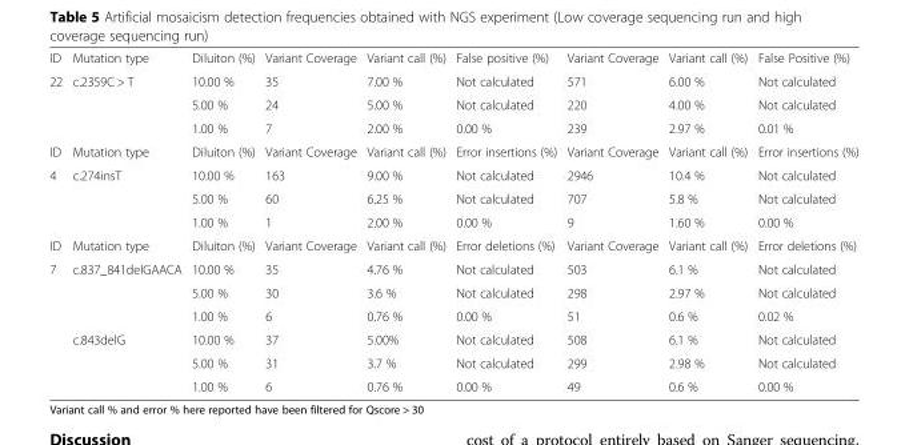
<table><tbody><tr><td>ID</td><td>Mutation type</td><td>Diluiton (%)</td><td>Variant Coverage</td><td>Variant call (%)</td><td>False positive (%)</td><td>Variant Coverage</td><td>Variant call (%)</td><td>False Positive (%)</td></tr><tr><td rowspan="3">22</td><td rowspan="3">c.2359C &gt; T</td><td>10.00 %</td><td>35</td><td>7.00 %</td><td>Not calculated</td><td>571</td><td>6.00 %</td><td>Not calculated</td></tr><tr><td>5.00 %</td><td>24</td><td>5.00 %</td><td>Not calculated</td><td>220</td><td>4.00 %</td><td>Not calculated</td></tr><tr><td>1.00 %</td><td>7</td><td>2.00 %</td><td>0.00 %</td><td>239</td><td>2.97 %</td><td>0.01 %</td></tr><tr><td>ID</td><td>Mutation type</td><td>Diluiton (%)</td><td>Variant Coverage</td><td>Variant call (%)</td><td>Error insertions (%)</td><td>Variant Coverage</td><td>Variant call (%)</td><td>Error insertions (%)</td></tr><tr><td rowspan="3">4</td><td rowspan="3">c.274insT</td><td>10.00 %</td><td>163</td><td>9.00 %</td><td>Not calculated</td><td>2946</td><td>10.4 %</td><td>Not calculated</td></tr><tr><td>5.00 %</td><td>60</td><td>6.25 %</td><td>Not calculated</td><td>707</td><td>5.8 %</td><td>Not calculated</td></tr><tr><td>1.00 %</td><td>1</td><td>2.00 %</td><td>0.00 %</td><td>9</td><td>1.60 %</td><td>0.00 %</td></tr><tr><td>ID</td><td>Mutation type</td><td>Diluiton (%)</td><td>Variant Coverage</td><td>Variant call (%)</td><td>Error deletions (%)</td><td>Variant Coverage</td><td>Variant call (%)</td><td>Error deletions (%)</td></tr><tr><td rowspan="6">7</td><td rowspan="3">c.837_841delGAACA</td><td>10.00 %</td><td>35</td><td>4.76 %</td><td>Not calculated</td><td>503</td><td>6.1 %</td><td>Not calculated</td></tr><tr><td>5.00 %</td><td>30</td><td>3.6 %</td><td>Not calculated</td><td>298</td><td>2.97 %</td><td>Not calculated</td></tr><tr><td>1.00 %</td><td>6</td><td>0.76 %</td><td>0.00 %</td><td>51</td><td>0.6 %</td><td>0.02 %</td></tr><tr><td rowspan="3">c.843delG</td><td>10.00 %</td><td>37</td><td>5.00%</td><td>Not calculated</td><td>508</td><td>6.1 %</td><td>Not calculated</td></tr><tr><td>5.00 %</td><td>31</td><td>3.7 %</td><td>Not calculated</td><td>299</td><td>2.98 %</td><td>Not calculated</td></tr><tr><td>1.00 %</td><td>6</td><td>0.76 %</td><td>0.00 %</td><td>49</td><td>0.6 %</td><td>0.00 %</td></tr></tbody></table>